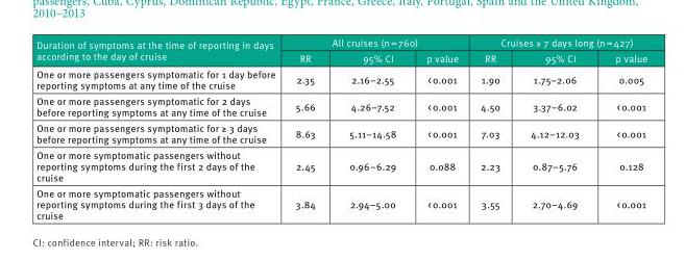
<table><thead><tr><td rowspan="2">Duration of symptoms at the time of reporting in days according to the day of cruise</td><td colspan="3">All cruises (n = 760)</td><td colspan="3">Cruises ≥ 7 days long (n = 427)</td></tr><tr><td>RR</td><td>95% CI</td><td>p value</td><td>RR</td><td>95% CI</td><td>p value</td></tr></thead><tbody><tr><td>One or more passengers symptomatic for 1 day before reporting symptoms at any time of the cruise</td><td>2.35</td><td>2.16–2.55</td><td>&lt; 0.001</td><td>1.90</td><td>1.75–2.06</td><td>0.005</td></tr><tr><td>One or more passengers symptomatic for 2 days before reporting symptoms at any time of the cruise</td><td>5.66</td><td>4.26–7.52</td><td>&lt; 0.001</td><td>4.50</td><td>3.37–6.02</td><td>&lt; 0.001</td></tr><tr><td>One or more passengers symptomatic for ≥ 3 days before reporting symptoms at any time of the cruise</td><td>8.63</td><td>5.11–14.58</td><td>&lt; 0.001</td><td>7.03</td><td>4.12–12.03</td><td>&lt; 0.001</td></tr><tr><td>One or more symptomatic passengers without reporting symptoms during the first 2 days of the cruise</td><td>2.45</td><td>0.96–6.29</td><td>0.088</td><td>2.23</td><td>0.87–5.76</td><td>0.128</td></tr><tr><td>One or more symptomatic passengers without reporting symptoms during the first 3 days of the cruise</td><td>3.84</td><td>2.94–5.00</td><td>&lt; 0.001</td><td>3.55</td><td>2.70–4.69</td><td>&lt; 0.001</td></tr></tbody></table>